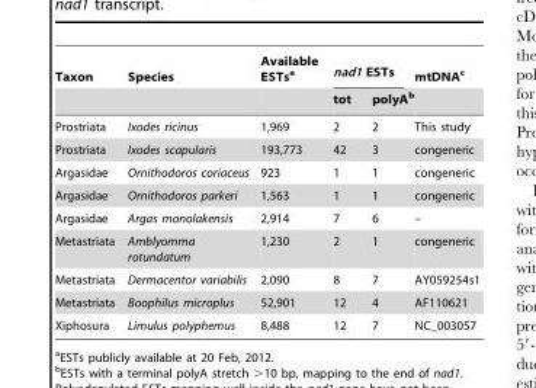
<table><thead><tr><td rowspan="2">Taxon</td><td rowspan="2">Species</td><td rowspan="2">Available ESTs<sup>a</sup></td><td colspan="2">nad1 ESTs</td><td rowspan="2">mtDNA<sup>c</sup></td></tr><tr><td>tot</td><td>polyA<sup>b</sup></td></tr></thead><tbody><tr><td>Prostriata</td><td>Ixodes ricinus</td><td>1,969</td><td>2</td><td>2</td><td>This study</td></tr><tr><td>Prostriata</td><td>Ixodes scapularis</td><td>193,773</td><td>42</td><td>3</td><td>congeneric</td></tr><tr><td>Argasidae</td><td>Ornithodoros coriaceus</td><td>923</td><td>1</td><td>1</td><td>congeneric</td></tr><tr><td>Argasidae</td><td>Ornithodoros parkeri</td><td>1,563</td><td>1</td><td>1</td><td>congeneric</td></tr><tr><td>Argasidae</td><td>Argas monolakensis</td><td>2,914</td><td>7</td><td>6</td><td>–</td></tr><tr><td>Metastriata</td><td>Amblyomma rotundatum</td><td>1,230</td><td>2</td><td>1</td><td>congeneric</td></tr><tr><td>Metastriata</td><td>Dermacentor variabilis</td><td>2,090</td><td>8</td><td>7</td><td>AY059254s1</td></tr><tr><td>Metastriata</td><td>Boophilus microplus</td><td>52,901</td><td>12</td><td>4</td><td>AF110621</td></tr><tr><td>Xiphosura</td><td>Limulus polyphemus</td><td>8,488</td><td>12</td><td>7</td><td>NC_003057</td></tr></tbody></table>